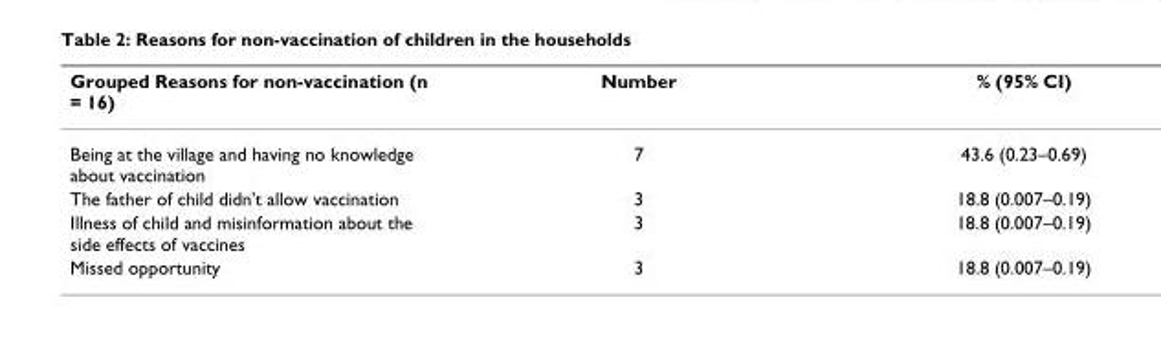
<table><thead><tr><td>Grouped Reasons for non-vaccination (n = 16)</td><td>Number</td><td>% (95% CI)</td></tr></thead><tbody><tr><td>Being at the village and having no knowledge about vaccination</td><td>7</td><td>43.6 (0.23–0.69)</td></tr><tr><td>The father of child didn&#x27;t allow vaccination</td><td>3</td><td>18.8 (0.007–0.19)</td></tr><tr><td>Illness of child and misinformation about the side effects of vaccines</td><td>3</td><td>18.8 (0.007–0.19)</td></tr><tr><td>Missed opportunity</td><td>3</td><td>18.8 (0.007–0.19)</td></tr></tbody></table>